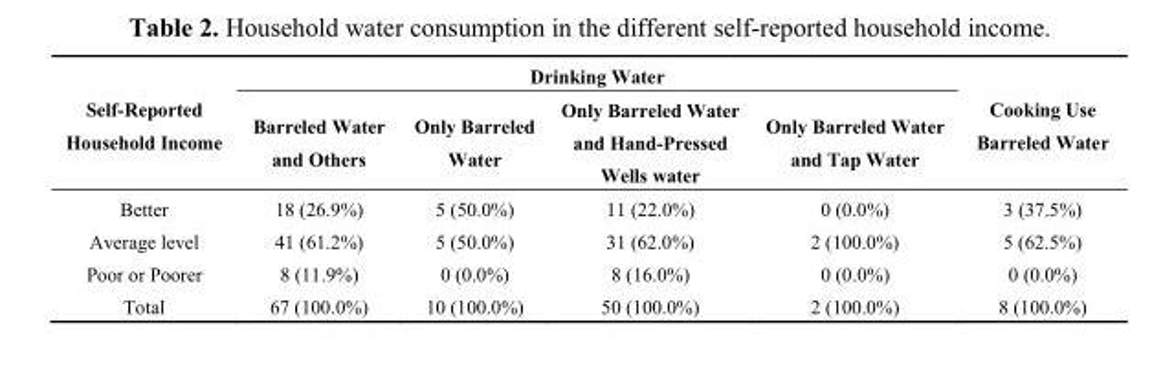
<table><thead><tr><td rowspan="2">Self-Reported Household Income</td><td colspan="4">Drinking Water</td><td rowspan="2">Cooking Use Barreled Water</td></tr><tr><td>Barreled Water and Others</td><td>Only Barreled Water</td><td>Only Barreled Water and Hand-Pressed Wells water</td><td>Only Barreled Water and Tap Water</td></tr></thead><tbody><tr><td>Better</td><td>18 (26.9%)</td><td>5 (50.0%)</td><td>11 (22.0%)</td><td>0 (0.0%)</td><td>3 (37.5%)</td></tr><tr><td>Average level</td><td>41 (61.2%)</td><td>5 (50.0%)</td><td>31 (62.0%)</td><td>2 (100.0%)</td><td>5 (62.5%)</td></tr><tr><td>Poor or Poorer</td><td>8 (11.9%)</td><td>0 (0.0%)</td><td>8 (16.0%)</td><td>0 (0.0%)</td><td>0 (0.0%)</td></tr><tr><td>Total</td><td>67 (100.0%)</td><td>10 (100.0%)</td><td>50 (100.0%)</td><td>2 (100.0%)</td><td>8 (100.0%)</td></tr></tbody></table>